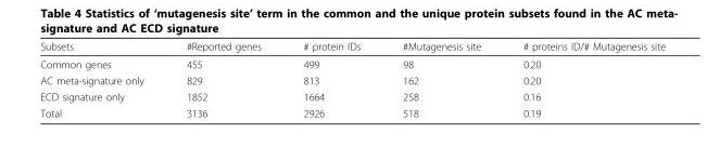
<table><thead><tr><td>Subsets</td><td>#Reported genes</td><td># protein IDs</td><td>#Mutagenesis site</td><td># proteins ID/# Mutagenesis site</td></tr></thead><tbody><tr><td>Common genes</td><td>455</td><td>499</td><td>98</td><td>0.20</td></tr><tr><td>AC meta-signature only</td><td>829</td><td>813</td><td>162</td><td>0.20</td></tr><tr><td>ECD signature only</td><td>1852</td><td>1664</td><td>258</td><td>0.16</td></tr><tr><td>Total</td><td>3136</td><td>2926</td><td>518</td><td>0.19</td></tr></tbody></table>